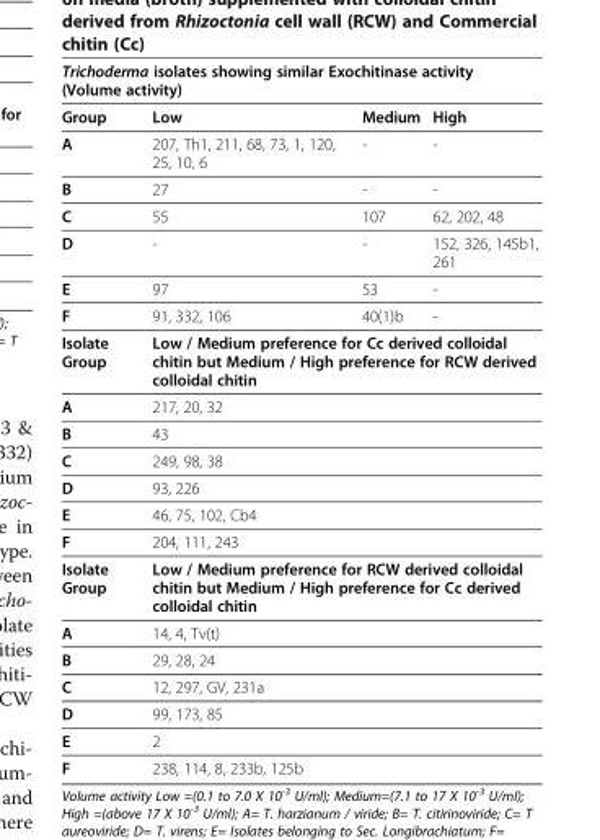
<table><thead><tr><td colspan="4">Trichoderma isolates showing similar Exochitinase activity (Volume activity)</td></tr><tr><td>Group</td><td>Low</td><td>Medium</td><td>High</td></tr></thead><tbody><tr><td>A</td><td>207, Th1, 211, 68, 73, 1, 120, 25, 10, 6</td><td>-</td><td>-</td></tr><tr><td>B</td><td>27</td><td>-</td><td>-</td></tr><tr><td>C</td><td>55</td><td>107</td><td>62, 202, 48</td></tr><tr><td>D</td><td>-</td><td>-</td><td>152, 326, 145b1, 261</td></tr><tr><td>E</td><td>97</td><td>53</td><td>-</td></tr><tr><td>F</td><td>91, 332, 106</td><td>40(1)b</td><td>-</td></tr><tr><td>Isolate Group</td><td colspan="3">Low / Medium preference for Cc derived colloidal chitin but Medium / High preference for RCW derived colloidal chitin</td></tr><tr><td>A</td><td colspan="3">217, 20, 32</td></tr><tr><td>B</td><td colspan="3">43</td></tr><tr><td>C</td><td colspan="3">249, 98, 38</td></tr><tr><td>D</td><td colspan="3">93, 226</td></tr><tr><td>E</td><td colspan="3">46, 75, 102, Cb4</td></tr><tr><td>F</td><td colspan="3">204, 111, 243</td></tr><tr><td>Isolate Group</td><td colspan="3">Low / Medium preference for RCW derived colloidal chitin but Medium / High preference for Cc derived colloidal chitin</td></tr><tr><td>A</td><td colspan="3">14, 4, Tv(t)</td></tr><tr><td>B</td><td colspan="3">29, 28, 24</td></tr><tr><td>C</td><td colspan="3">12, 297, GV, 231a</td></tr><tr><td>D</td><td colspan="3">99, 173, 85</td></tr><tr><td>E</td><td colspan="3">2</td></tr><tr><td>F</td><td colspan="3">238, 114, 8, 233b, 125b</td></tr></tbody></table>